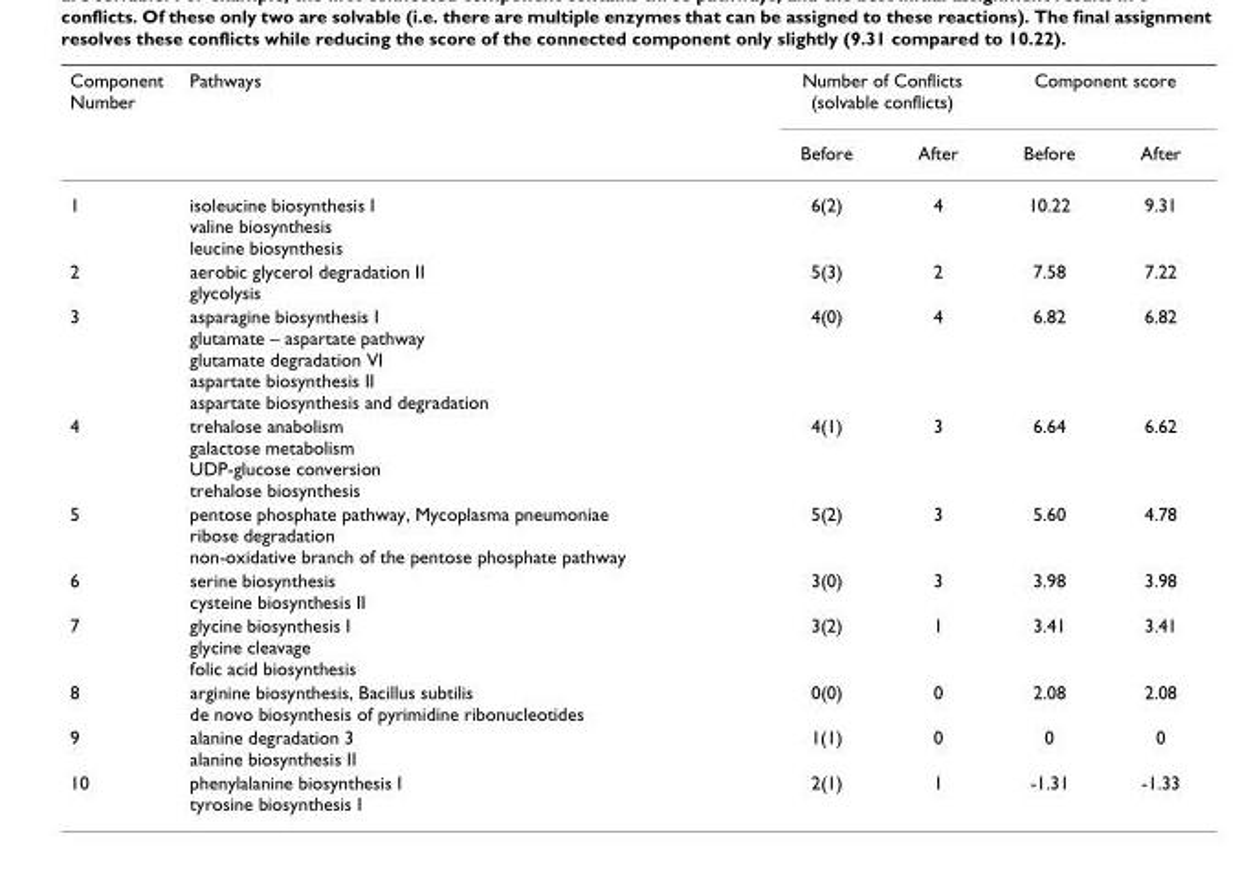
<table><thead><tr><td rowspan="2">Component Number</td><td rowspan="2">Pathways</td><td colspan="2">Number of Conflicts (solvable conflicts)</td><td colspan="2">Component score</td></tr><tr><td>Before</td><td>After</td><td>Before</td><td>After</td></tr></thead><tbody><tr><td>1</td><td>isoleucine biosynthesis I valine biosynthesis leucine biosynthesis</td><td>6(2)</td><td>4</td><td>10.22</td><td>9.31</td></tr><tr><td>2</td><td>aerobic glycerol degradation II glycolysis</td><td>5(3)</td><td>2</td><td>7.58</td><td>7.22</td></tr><tr><td>3</td><td>asparagine biosynthesis I glutamate – aspartate pathway glutamate degradation VI aspartate biosynthesis II aspartate biosynthesis and degradation</td><td>4(0)</td><td>4</td><td>6.82</td><td>6.82</td></tr><tr><td>4</td><td>trehalose anabolism galactose metabolism UDP-glucose conversion trehalose biosynthesis</td><td>4(1)</td><td>3</td><td>6.64</td><td>6.62</td></tr><tr><td>5</td><td>pentose phosphate pathway, Mycoplasma pneumoniae ribose degradation non-oxidative branch of the pentose phosphate pathway</td><td>5(2)</td><td>3</td><td>5.60</td><td>4.78</td></tr><tr><td>6</td><td>serine biosynthesis cysteine biosynthesis II</td><td>3(0)</td><td>3</td><td>3.98</td><td>3.98</td></tr><tr><td>7</td><td>glycine biosynthesis I glycine cleavage folic acid biosynthesis</td><td>3(2)</td><td>1</td><td>3.41</td><td>3.41</td></tr><tr><td>8</td><td>arginine biosynthesis, Bacillus subtilis de novo biosynthesis of pyrimidine ribonucleotides</td><td>0(0)</td><td>0</td><td>2.08</td><td>2.08</td></tr><tr><td>9</td><td>alanine degradation 3 alanine biosynthesis II</td><td>1(1)</td><td>0</td><td>0</td><td>0</td></tr><tr><td>10</td><td>phenylalanine biosynthesis I tyrosine biosynthesis I</td><td>2(1)</td><td>1</td><td>-1.31</td><td>-1.33</td></tr></tbody></table>